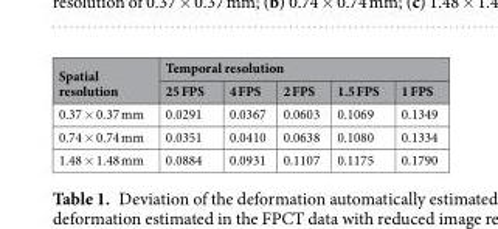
<table><thead><tr><td rowspan="2">Spatial resolution</td><td colspan="5">Temporal resolution</td></tr><tr><td>25 FPS</td><td>4 FPS</td><td>2 FPS</td><td>1.5 FPS</td><td>1 FPS</td></tr></thead><tbody><tr><td>0.37 × 0.37 mm</td><td>0.0291</td><td>0.0367</td><td>0.0603</td><td>0.1069</td><td>0.1349</td></tr><tr><td>0.74 × 0.74 mm</td><td>0.0351</td><td>0.0410</td><td>0.0638</td><td>0.1080</td><td>0.1334</td></tr><tr><td>1.48 × 1.48 mm</td><td>0.0884</td><td>0.0931</td><td>0.1107</td><td>0.1175</td><td>0.1790</td></tr></tbody></table>